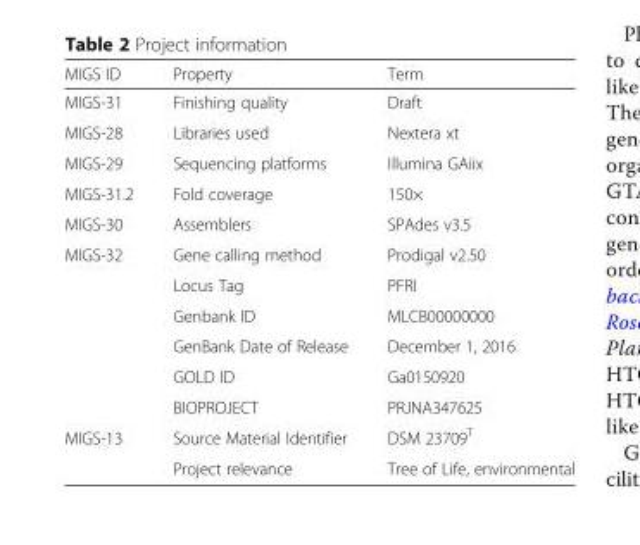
<table><thead><tr><td>MIGS ID</td><td>Property</td><td>Term</td></tr></thead><tbody><tr><td>MIGS-31</td><td>Finishing quality</td><td>Draft</td></tr><tr><td>MIGS-28</td><td>Libraries used</td><td>Nextera xt</td></tr><tr><td>MIGS-29</td><td>Sequencing platforms</td><td>Illumina GAiix</td></tr><tr><td>MIGS-31.2</td><td>Fold coverage</td><td>150×</td></tr><tr><td>MIGS-30</td><td>Assemblers</td><td>SPAdes v3.5</td></tr><tr><td rowspan="6">MIGS-32</td><td>Gene calling method</td><td>Prodigal v2.50</td></tr><tr><td>Locus Tag</td><td>PFRI</td></tr><tr><td>Genbank ID</td><td>MLCB00000000</td></tr><tr><td>GenBank Date of Release</td><td>December 1, 2016</td></tr><tr><td>GOLD ID</td><td>Ga0150920</td></tr><tr><td>BIOPROJECT</td><td>PRJNA347625</td></tr><tr><td rowspan="2">MIGS-13</td><td>Source Material Identifier</td><td>DSM 23709<sup>T</sup></td></tr><tr><td>Project relevance</td><td>Tree of Life, environmental</td></tr></tbody></table>